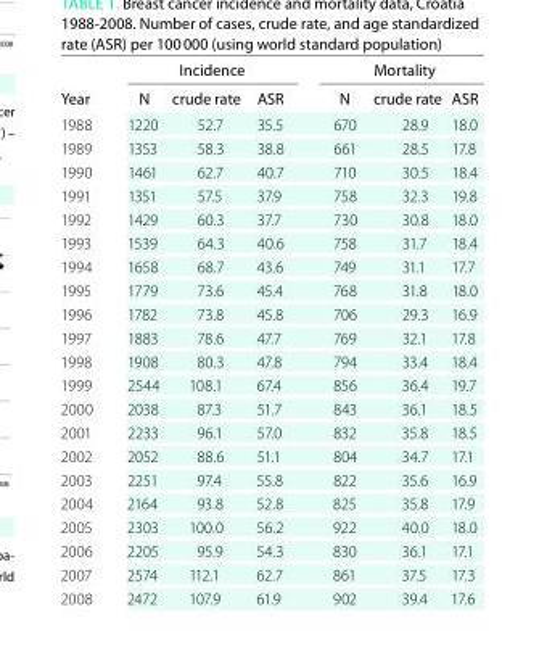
<table><thead><tr><td rowspan="2">Year</td><td colspan="3">Incidence</td><td colspan="3">Mortality</td></tr><tr><td>n</td><td>crude rate</td><td>Asr</td><td>n</td><td>crude rate</td><td>Asr</td></tr></thead><tbody><tr><td>1988</td><td>1220</td><td>52.7</td><td>35.5</td><td>670</td><td>28.9</td><td>18.0</td></tr><tr><td>1989</td><td>1353</td><td>58.3</td><td>38.8</td><td>661</td><td>28.5</td><td>17.8</td></tr><tr><td>1990</td><td>1461</td><td>62.7</td><td>40.7</td><td>710</td><td>30.5</td><td>18.4</td></tr><tr><td>1991</td><td>1351</td><td>57.5</td><td>37.9</td><td>758</td><td>32.3</td><td>19.8</td></tr><tr><td>1992</td><td>1429</td><td>60.3</td><td>37.7</td><td>730</td><td>30.8</td><td>18.0</td></tr><tr><td>1993</td><td>1539</td><td>64.3</td><td>40.6</td><td>758</td><td>31.7</td><td>18.4</td></tr><tr><td>1994</td><td>1658</td><td>68.7</td><td>43.6</td><td>749</td><td>31.1</td><td>17.7</td></tr><tr><td>1995</td><td>1779</td><td>73.6</td><td>45.4</td><td>768</td><td>31.8</td><td>18.0</td></tr><tr><td>1996</td><td>1782</td><td>73.8</td><td>45.8</td><td>706</td><td>29.3</td><td>16.9</td></tr><tr><td>1997</td><td>1883</td><td>78.6</td><td>47.7</td><td>769</td><td>32.1</td><td>17.8</td></tr><tr><td>1998</td><td>1908</td><td>80.3</td><td>47.8</td><td>794</td><td>33.4</td><td>18.4</td></tr><tr><td>1999</td><td>2544</td><td>108.1</td><td>67.4</td><td>856</td><td>36.4</td><td>19.7</td></tr><tr><td>2000</td><td>2038</td><td>87.3</td><td>51.7</td><td>843</td><td>36.1</td><td>18.5</td></tr><tr><td>2001</td><td>2233</td><td>96.1</td><td>57.0</td><td>832</td><td>35.8</td><td>18.5</td></tr><tr><td>2002</td><td>2052</td><td>88.6</td><td>51.1</td><td>804</td><td>34.7</td><td>17.1</td></tr><tr><td>2003</td><td>2251</td><td>97.4</td><td>55.8</td><td>822</td><td>35.6</td><td>16.9</td></tr><tr><td>2004</td><td>2164</td><td>93.8</td><td>52.8</td><td>825</td><td>35.8</td><td>17.9</td></tr><tr><td>2005</td><td>2303</td><td>100.0</td><td>56.2</td><td>922</td><td>40.0</td><td>18.0</td></tr><tr><td>2006</td><td>2205</td><td>95.9</td><td>54.3</td><td>830</td><td>36.1</td><td>17.1</td></tr><tr><td>2007</td><td>2574</td><td>112.1</td><td>62.7</td><td>861</td><td>37.5</td><td>17.3</td></tr><tr><td>2008</td><td>2472</td><td>107.9</td><td>61.9</td><td>902</td><td>39.4</td><td>17.6</td></tr></tbody></table>